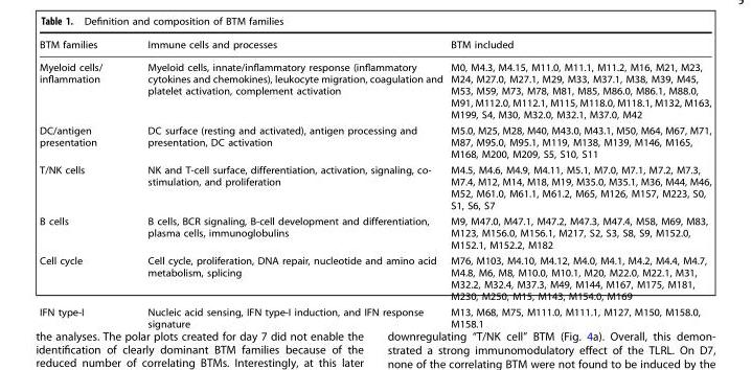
<table><thead><tr><td>BTM families</td><td>Immune cells and processes</td><td>BTM included</td></tr></thead><tbody><tr><td>Myeloid cells/ inflammation</td><td>Myeloid cells, innate/inflammatory response (inflammatory cytokines and chemokines), leukocyte migration, coagulation and platelet activation, complement activation</td><td>M0, M4.3, M4.15, M11.0, M11.1, M11.2, M16, M21, M23, M24, M27.0, M27.1, M29, M33, M37.1, M38, M39, M45, M53, M59, M73, M78, M81, M85, M86.0, M86.1, M88.0, M91, M112.0, M112.1, M115, M118.0, M118.1, M132, M163, M199, S4, M30, M32.0, M32.1, M37.0, M42</td></tr><tr><td>DC/antigen presentation</td><td>DC surface (resting and activated), antigen processing and presentation, DC activation</td><td>M5.0, M25, M28, M40, M43.0, M43.1, M50, M64, M67, M71, M87, M95.0, M95.1, M119, M138, M139, M146, M165, M168, M200, M209, S5, S10, S11</td></tr><tr><td>T/NK cells</td><td>NK and T-cell surface, differentiation, activation, signaling, co- stimulation, and proliferation</td><td>M4.5, M4.6, M4.9, M4.11, M5.1, M7.0, M7.1, M7.2, M7.3, M7.4, M12, M14, M18, M19, M35.0, M35.1, M36, M44, M46, M52, M61.0, M61.1, M61.2, M65, M126, M157, M223, S0, S1, S6, S7</td></tr><tr><td>B cells</td><td>B cells, BCR signaling, B-cell development and differentiation, plasma cells, immunoglobulins</td><td>M9, M47.0, M47.1, M47.2, M47.3, M47.4, M58, M69, M83, M123, M156.0, M156.1, M217, S2, S3, S8, S9, M152.0, M152.1, M152.2, M182</td></tr><tr><td>Cell cycle</td><td>Cell cycle, proliferation, DNA repair, nucleotide and amino acid metabolism, splicing</td><td>M76, M103, M4.10, M4.12, M4.0, M4.1, M4.2, M4.4, M4.7, M4.8, M6, M8, M10.0, M10.1, M20, M22.0, M22.1, M31, M32.2, M32.4, M37.3, M49, M144, M167, M175, M181, M230, M250, M15, M143, M154.0, M169</td></tr><tr><td>IFN type-I</td><td>Nucleic acid sensing, IFN type-I induction, and IFN response signature</td><td>M13, M68, M75, M111.0, M111.1, M127, M150, M158.0, M158.1</td></tr></tbody></table>